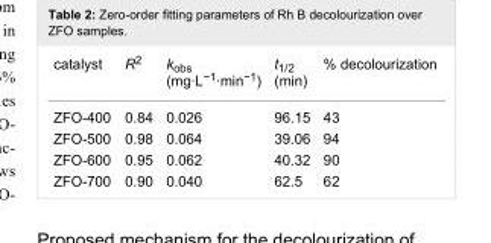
<table><tbody><tr><td>catalyst</td><td>R<sup>2</sup></td><td>k<sub>obs</sub> (mg·L<sup>−1</sup>·min<sup>−1</sup>)</td><td>t<sub>1/2</sub> (min)</td><td>% decolourization</td></tr><tr><td>ZFO-400</td><td>0.84</td><td>0.026</td><td>96.15</td><td>43</td></tr><tr><td>ZFO-500</td><td>0.98</td><td>0.064</td><td>39.06</td><td>94</td></tr><tr><td>ZFO-600</td><td>0.95</td><td>0.062</td><td>40.32</td><td>90</td></tr><tr><td>ZFO-700</td><td>0.90</td><td>0.040</td><td>62.5</td><td>62</td></tr></tbody></table>